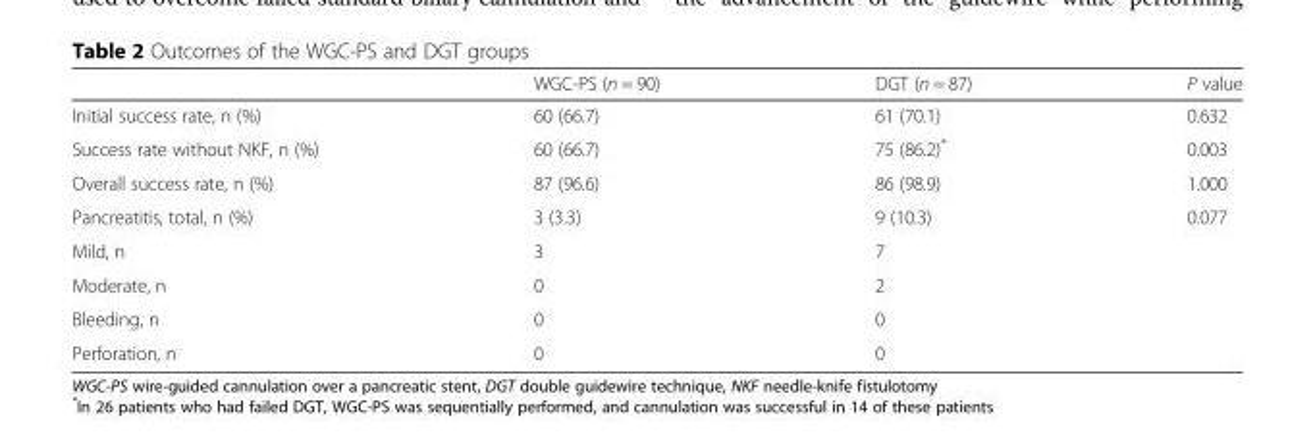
<table><thead><tr><td></td><td>WGC-PS (n = 90)</td><td>DGT (n = 87)</td><td>P value</td></tr></thead><tbody><tr><td>Initial success rate, n (%)</td><td>60 (66.7)</td><td>61 (70.1)</td><td>0.632</td></tr><tr><td>Success rate without NKF, n (%)</td><td>60 (66.7)</td><td>75 (86.2)*</td><td>0.003</td></tr><tr><td>Overall success rate, n (%)</td><td>87 (96.6)</td><td>86 (98.9)</td><td>1.000</td></tr><tr><td>Pancreatitis, total, n (%)</td><td>3 (3.3)</td><td>9 (10.3)</td><td>0.077</td></tr><tr><td>Mild, n</td><td>3</td><td>7</td><td></td></tr><tr><td>Moderate, n</td><td>0</td><td>2</td><td></td></tr><tr><td>Bleeding, n</td><td>0</td><td>0</td><td></td></tr><tr><td>Perforation, n</td><td>0</td><td>0</td><td></td></tr></tbody></table>